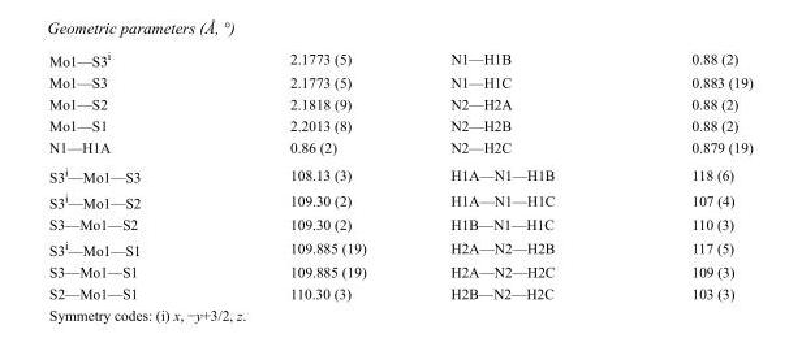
<table><tbody><tr><td>Mo1—S3<sup>i</sup></td><td>2.1773 (5)</td><td>N1—H1B</td><td>0.88 (2)</td></tr><tr><td>Mo1—S3</td><td>2.1773 (5)</td><td>N1—H1C</td><td>0.883 (19)</td></tr><tr><td>Mo1—S2</td><td>2.1818 (9)</td><td>N2—H2A</td><td>0.88 (2)</td></tr><tr><td>Mo1—S1</td><td>2.2013 (8)</td><td>N2—H2B</td><td>0.88 (2)</td></tr><tr><td>N1—H1A</td><td>0.86 (2)</td><td>N2—H2C</td><td>0.879 (19)</td></tr><tr><td>S3<sup>i</sup>—Mo1—S3</td><td>108.13 (3)</td><td>H1A—N1—H1B</td><td>118 (6)</td></tr><tr><td>S3<sup>i</sup>—Mo1—S2</td><td>109.30 (2)</td><td>H1A—N1—H1C</td><td>107 (4)</td></tr><tr><td>S3—Mo1—S2</td><td>109.30 (2)</td><td>H1B—N1—H1C</td><td>110 (3)</td></tr><tr><td>S3<sup>i</sup>—Mo1—S1</td><td>109.885 (19)</td><td>H2A—N2—H2B</td><td>117 (5)</td></tr><tr><td>S3—Mo1—S1</td><td>109.885 (19)</td><td>H2A—N2—H2C</td><td>109 (3)</td></tr><tr><td>S2—Mo1—S1</td><td>110.30 (3)</td><td>H2B—N2—H2C</td><td>103 (3)</td></tr></tbody></table>